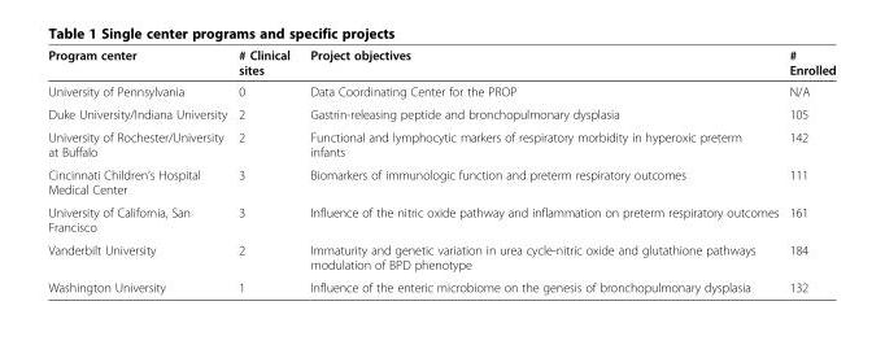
<table><thead><tr><td>Program center</td><td># Clinical sites</td><td>Project objectives</td><td># Enrolled</td></tr></thead><tbody><tr><td>University of Pennsylvania</td><td>0</td><td>Data Coordinating Center for the PROP</td><td>N/A</td></tr><tr><td>Duke University/Indiana University</td><td>2</td><td>Gastrin-releasing peptide and bronchopulmonary dysplasia</td><td>105</td></tr><tr><td>University of Rochester/University at Buffalo</td><td>2</td><td>Functional and lymphocytic markers of respiratory morbidity in hyperoxic preterm infants</td><td>142</td></tr><tr><td>Cincinnati Children’s Hospital Medical Center</td><td>3</td><td>Biomarkers of immunologic function and preterm respiratory outcomes</td><td>111</td></tr><tr><td>University of California, San Francisco</td><td>3</td><td>Influence of the nitric oxide pathway and inflammation on preterm respiratory outcomes</td><td>161</td></tr><tr><td>Vanderbilt University</td><td>2</td><td>Immaturity and genetic variation in urea cycle-nitric oxide and glutathione pathways modulation of BPD phenotype</td><td>184</td></tr><tr><td>Washington University</td><td>1</td><td>Influence of the enteric microbiome on the genesis of bronchopulmonary dysplasia</td><td>132</td></tr></tbody></table>